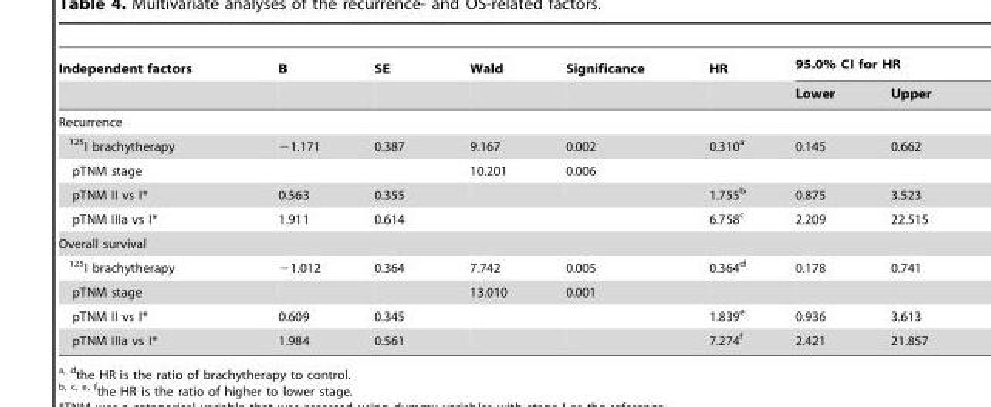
<table><thead><tr><td rowspan="2">Independent factors</td><td rowspan="2">B</td><td rowspan="2">SE</td><td rowspan="2">Wald</td><td rowspan="2">Significance</td><td rowspan="2">HR</td><td colspan="2">95.0% CI for HR</td></tr><tr><td>Lower</td><td>Upper</td></tr></thead><tbody><tr><td colspan="8">Recurrence</td></tr><tr><td><sup>125</sup>I brachytherapy</td><td>−1.171</td><td>0.387</td><td>9.167</td><td>0.002</td><td>0.310<sup>a</sup></td><td>0.145</td><td>0.662</td></tr><tr><td>pTNM stage</td><td></td><td></td><td>10.201</td><td>0.006</td><td></td><td></td><td></td></tr><tr><td>pTNM II vs I*</td><td>0.563</td><td>0.355</td><td></td><td></td><td>1.755<sup>b</sup></td><td>0.875</td><td>3.523</td></tr><tr><td>pTNM IIIa vs I*</td><td>1.911</td><td>0.614</td><td></td><td></td><td>6.758<sup>c</sup></td><td>2.209</td><td>22.515</td></tr><tr><td colspan="8">Overall survival</td></tr><tr><td><sup>125</sup>I brachytherapy</td><td>−1.012</td><td>0.364</td><td>7.742</td><td>0.005</td><td>0.364<sup>d</sup></td><td>0.178</td><td>0.741</td></tr><tr><td>pTNM stage</td><td></td><td></td><td>13.010</td><td>0.001</td><td></td><td></td><td></td></tr><tr><td>pTNM II vs I*</td><td>0.609</td><td>0.345</td><td></td><td></td><td>1.839<sup>e</sup></td><td>0.936</td><td>3.613</td></tr><tr><td>pTNM IIIa vs I*</td><td>1.984</td><td>0.561</td><td></td><td></td><td>7.274<sup>f</sup></td><td>2.421</td><td>21.857</td></tr></tbody></table>